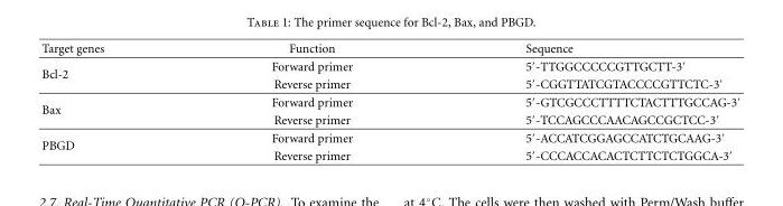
<table><thead><tr><td>Target genes</td><td>Function</td><td>Sequence</td></tr></thead><tbody><tr><td rowspan="2">Bcl-2</td><td>Forward primer</td><td>5′-TTGGCCCCCGTTGCTT-3′</td></tr><tr><td>Reverse primer</td><td>5′-CGGTTATCGTACCCCGTTCTC-3′</td></tr><tr><td rowspan="2">Bax</td><td>Forward primer</td><td>5′-GTCGCCCTTTTCTACTTTGCCAG-3′</td></tr><tr><td>Reverse primer</td><td>5′-TCCAGCCCAACAGCCGCTCC-3′</td></tr><tr><td rowspan="2">PBGD</td><td>Forward primer</td><td>5′-ACCATCGGAGCCATCTGCAAG-3′</td></tr><tr><td>Reverse primer</td><td>5′-CCCACCACACTCTTCTCTGGCA-3′</td></tr></tbody></table>